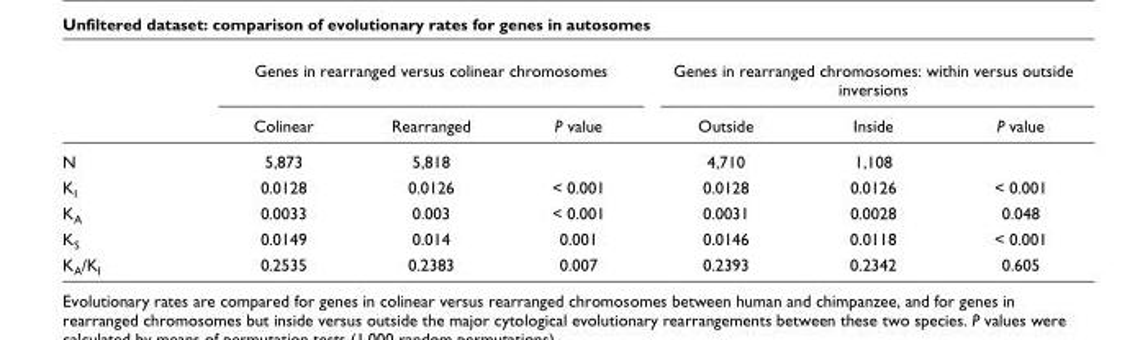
<table><thead><tr><td rowspan="2"></td><td colspan="3">Genes in rearranged versus colinear chromosomes</td><td colspan="3">Genes in rearranged chromosomes: within versus outside inversions</td></tr><tr><td>Colinear</td><td>Rearranged</td><td>P value</td><td>Outside</td><td>Inside</td><td>P value</td></tr></thead><tbody><tr><td>N</td><td>5,873</td><td>5,818</td><td></td><td>4,710</td><td>1,108</td><td></td></tr><tr><td>K<sub>I</sub></td><td>0.0128</td><td>0.0126</td><td>&lt; 0.001</td><td>0.0128</td><td>0.0126</td><td>&lt; 0.001</td></tr><tr><td>K<sub>A</sub></td><td>0.0033</td><td>0.003</td><td>&lt; 0.001</td><td>0.0031</td><td>0.0028</td><td>0.048</td></tr><tr><td>K<sub>S</sub></td><td>0.0149</td><td>0.014</td><td>0.001</td><td>0.0146</td><td>0.0118</td><td>&lt; 0.001</td></tr><tr><td>K<sub>A</sub>/K<sub>I</sub></td><td>0.2535</td><td>0.2383</td><td>0.007</td><td>0.2393</td><td>0.2342</td><td>0.605</td></tr></tbody></table>